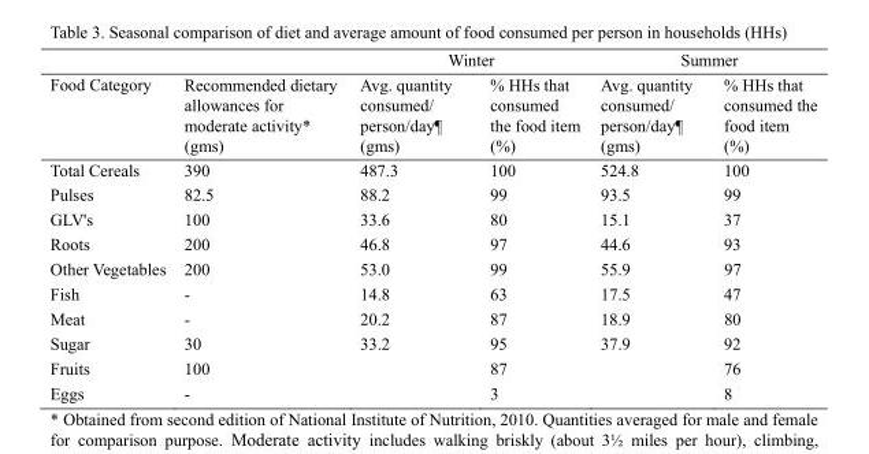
<table><thead><tr><td rowspan="2">Food Category</td><td rowspan="2">Recommended dietary allowances for moderate activity* (gms)</td><td colspan="2">Winter</td><td colspan="2">Summer</td></tr><tr><td>Avg. quantity consumed/ person/day¶ (gms)</td><td>% HHs that consumed the food item (%)</td><td>Avg. quantity consumed/ person/day¶ (gms)</td><td>% HHs that consumed the food item (%)</td></tr></thead><tbody><tr><td>Total Cereals</td><td>390</td><td>487.3</td><td>100</td><td>524.8</td><td>100</td></tr><tr><td>Pulses</td><td>82.5</td><td>88.2</td><td>99</td><td>93.5</td><td>99</td></tr><tr><td>GLV&#x27;s</td><td>100</td><td>33.6</td><td>80</td><td>15.1</td><td>37</td></tr><tr><td>Roots</td><td>200</td><td>46.8</td><td>97</td><td>44.6</td><td>93</td></tr><tr><td>Other Vegetables</td><td>200</td><td>53.0</td><td>99</td><td>55.9</td><td>97</td></tr><tr><td>Fish</td><td>-</td><td>14.8</td><td>63</td><td>17.5</td><td>47</td></tr><tr><td>Meat</td><td>-</td><td>20.2</td><td>87</td><td>18.9</td><td>80</td></tr><tr><td>Sugar</td><td>30</td><td>33.2</td><td>95</td><td>37.9</td><td>92</td></tr><tr><td>Fruits</td><td>100</td><td></td><td>87</td><td></td><td>76</td></tr><tr><td>Eggs</td><td>-</td><td></td><td>3</td><td></td><td>8</td></tr></tbody></table>